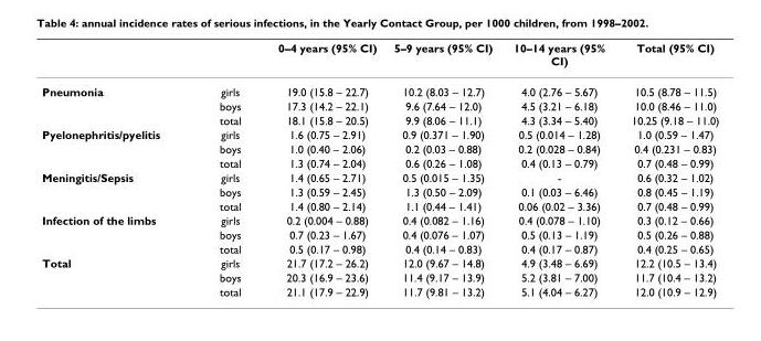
<table><thead><tr><td></td><td></td><td>0–4 years (95% CI)</td><td>5–9 years (95% CI)</td><td>10–14 years (95% CI)</td><td>Total (95% CI)</td></tr></thead><tbody><tr><td rowspan="3">Pneumonia</td><td>girls</td><td>19.0 (15.8 – 22.7)</td><td>10.2 (8.03 – 12.7)</td><td>4.0 (2.76 – 5.67)</td><td>10.5 (8.78 – 11.5)</td></tr><tr><td>boys</td><td>17.3 (14.2 – 22.1)</td><td>9.6 (7.64 – 12.0)</td><td>4.5 (3.21 – 6.18)</td><td>10.0 (8.46 – 11.0)</td></tr><tr><td>total</td><td>18.1 (15.8 – 20.5)</td><td>9.9 (8.06 – 11.1)</td><td>4.3 (3.34 – 5.40)</td><td>10.25 (9.18 – 11.0)</td></tr><tr><td rowspan="3">Pyelonephritis/pyelitis</td><td>girls</td><td>1.6 (0.75 – 2.91)</td><td>0.9 (0.371 – 1.90)</td><td>0.5 (0.014 – 1.28)</td><td>1.0 (0.59 – 1.47)</td></tr><tr><td>boys</td><td>1.0 (0.40 – 2.06)</td><td>0.2 (0.03 – 0.88)</td><td>0.2 (0.028 – 0.84)</td><td>0.4 (0.231 – 0.83)</td></tr><tr><td>total</td><td>1.3 (0.74 – 2.04)</td><td>0.6 (0.26 – 1.08)</td><td>0.4 (0.13 – 0.79)</td><td>0.7 (0.48 – 0.99)</td></tr><tr><td rowspan="3">Meningitis/Sepsis</td><td>girls</td><td>1.4 (0.65 – 2.71)</td><td>0.5 (0.015 – 1.35)</td><td>-</td><td>0.6 (0.32 – 1.02)</td></tr><tr><td>boys</td><td>1.3 (0.59 – 2.45)</td><td>1.3 (0.50 – 2.09)</td><td>0.1 (0.03 – 6.46)</td><td>0.8 (0.45 – 1.19)</td></tr><tr><td>total</td><td>1.4 (0.80 – 2.14)</td><td>1.1 (0.44 – 1.41)</td><td>0.06 (0.02 – 3.36)</td><td>0.7 (0.48 – 0.99)</td></tr><tr><td rowspan="3">Infection of the limbs</td><td>girls</td><td>0.2 (0.004 – 0.88)</td><td>0.4 (0.082 – 1.16)</td><td>0.4 (0.078 – 1.10)</td><td>0.3 (0.12 – 0.66)</td></tr><tr><td>boys</td><td>0.7 (0.23 – 1.67)</td><td>0.4 (0.076 – 1.07)</td><td>0.5 (0.13 – 1.19)</td><td>0.5 (0.26 – 0.88)</td></tr><tr><td>total</td><td>0.5 (0.17 – 0.98)</td><td>0.4 (0.14 – 0.83)</td><td>0.4 (0.17 – 0.87)</td><td>0.4 (0.25 – 0.65)</td></tr><tr><td rowspan="3">Total</td><td>girls</td><td>21.7 (17.2 – 26.2)</td><td>12.0 (9.67 – 14.8)</td><td>4.9 (3.48 – 6.69)</td><td>12.2 (10.5 – 13.4)</td></tr><tr><td>boys</td><td>20.3 (16.9 – 23.6)</td><td>11.4 (9.17 – 13.9)</td><td>5.2 (3.81 – 7.00)</td><td>11.7 (10.4 – 13.2)</td></tr><tr><td>total</td><td>21.1 (17.9 – 22.9)</td><td>11.7 (9.81 – 13.2)</td><td>5.1 (4.04 – 6.27)</td><td>12.0 (10.9 – 12.9)</td></tr></tbody></table>